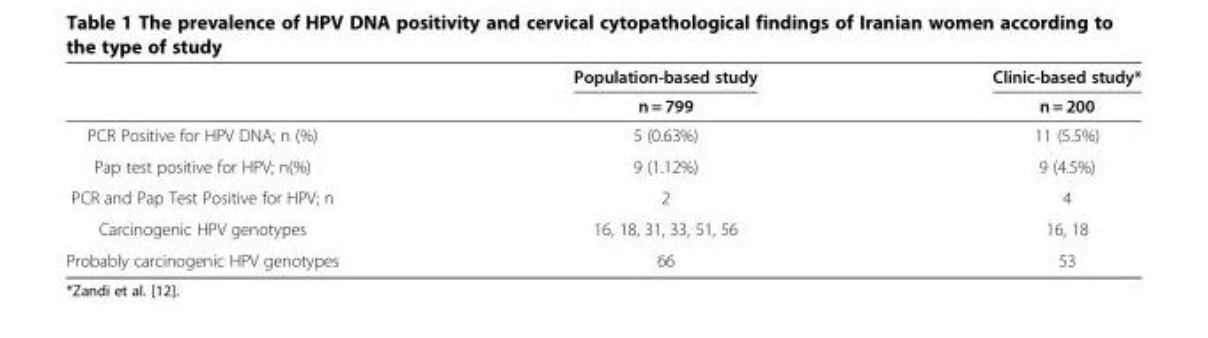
<table><thead><tr><td rowspan="2"></td><td rowspan="2">Population-based study n = 799</td><td rowspan="2">Clinic-based study* n = 200</td></tr><tr></tr></thead><tbody><tr><td>PCR Positive for HPV DNA; n (%)</td><td>5 (0.63%)</td><td>11 (5.5%)</td></tr><tr><td>Pap test positive for HPV; n(%)</td><td>9 (1.12%)</td><td>9 (4.5%)</td></tr><tr><td>PCR and Pap Test Positive for HPV; n</td><td>2</td><td>4</td></tr><tr><td>Carcinogenic HPV genotypes</td><td>16, 18, 31, 33, 51, 56</td><td>16, 18</td></tr><tr><td>Probably carcinogenic HPV genotypes</td><td>66</td><td>53</td></tr></tbody></table>